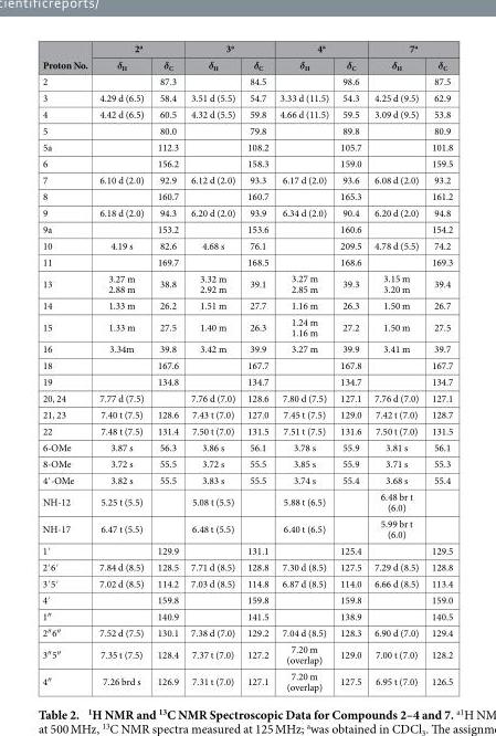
<table><thead><tr><td rowspan="2">Proton No.</td><td colspan="2">2<sup>a</sup></td><td colspan="2">3<sup>a</sup></td><td colspan="2">4<sup>a</sup></td><td colspan="2">7<sup>a</sup></td></tr><tr><td>δ<sub>H</sub></td><td>δ<sub>C</sub></td><td>δ<sub>H</sub></td><td>δ<sub>C</sub></td><td>δ<sub>H</sub></td><td>δ<sub>C</sub></td><td>δ<sub>H</sub></td><td>δ<sub>C</sub></td></tr></thead><tbody><tr><td>2</td><td></td><td>87.3</td><td></td><td>84.5</td><td></td><td>98.6</td><td></td><td>87.5</td></tr><tr><td>3</td><td>4.29 d (6.5)</td><td>58.4</td><td>3.51 d (5.5)</td><td>54.7</td><td>3.33 d (11.5)</td><td>54.3</td><td>4.25 d (9.5)</td><td>62.9</td></tr><tr><td>4</td><td>4.42 d (6.5)</td><td>60.5</td><td>4.32 d (5.5)</td><td>59.8</td><td>4.66 d (11.5)</td><td>59.5</td><td>3.09 d (9.5)</td><td>53.8</td></tr><tr><td>5</td><td></td><td>80.0</td><td></td><td>79.8</td><td></td><td>89.8</td><td></td><td>80.9</td></tr><tr><td>5a</td><td></td><td>112.3</td><td></td><td>108.2</td><td></td><td>105.7</td><td></td><td>101.8</td></tr><tr><td>6</td><td></td><td>156.2</td><td></td><td>158.3</td><td></td><td>159.0</td><td></td><td>159.5</td></tr><tr><td>7</td><td>6.10 d (2.0)</td><td>92.9</td><td>6.12 d (2.0)</td><td>93.3</td><td>6.17 d (2.0)</td><td>93.6</td><td>6.08 d (2.0)</td><td>93.2</td></tr><tr><td>8</td><td></td><td>160.7</td><td></td><td>160.7</td><td></td><td>165.3</td><td></td><td>161.2</td></tr><tr><td>9</td><td>6.18 d (2.0)</td><td>94.3</td><td>6.20 d (2.0)</td><td>93.9</td><td>6.34 d (2.0)</td><td>90.4</td><td>6.20 d (2.0)</td><td>94.8</td></tr><tr><td>9a</td><td></td><td>153.2</td><td></td><td>153.6</td><td></td><td>160.6</td><td></td><td>154.2</td></tr><tr><td>10</td><td>4.19 s</td><td>82.6</td><td>4.68 s</td><td>76.1</td><td></td><td>209.5</td><td>4.78 d (5.5)</td><td>74.2</td></tr><tr><td>11</td><td></td><td>169.7</td><td></td><td>168.5</td><td></td><td>168.6</td><td></td><td>169.3</td></tr><tr><td>13</td><td>3.27 m 2.88 m</td><td>38.8</td><td>3.32 m 2.92 m</td><td>39.1</td><td>3.27 m 2.85 m</td><td>39.3</td><td>3.15 m 3.20 m</td><td>39.4</td></tr><tr><td>14</td><td>1.33 m</td><td>26.2</td><td>1.51 m</td><td>27.7</td><td>1.16 m</td><td>26.3</td><td>1.50 m</td><td>26.7</td></tr><tr><td>15</td><td>1.33 m</td><td>27.5</td><td>1.40 m</td><td>26.3</td><td>1.24 m 1.16 m</td><td>27.2</td><td>1.50 m</td><td>27.5</td></tr><tr><td>16</td><td>3.34m</td><td>39.8</td><td>3.42 m</td><td>39.9</td><td>3.27 m</td><td>39.9</td><td>3.41 m</td><td>39.7</td></tr><tr><td>18</td><td></td><td>167.6</td><td></td><td>167.7</td><td></td><td>167.8</td><td></td><td>167.7</td></tr><tr><td>19</td><td></td><td>134.8</td><td></td><td>134.7</td><td></td><td>134.7</td><td></td><td>134.7</td></tr><tr><td>20, 24</td><td>7.77 d (7.5)</td><td></td><td>7.76 d (7.0)</td><td>128.6</td><td>7.80 d (7.5)</td><td>127.1</td><td>7.76 d (7.0)</td><td>127.1</td></tr><tr><td>21, 23</td><td>7.40 t (7.5)</td><td>128.6</td><td>7.43 t (7.0)</td><td>127.0</td><td>7.45 t (7.5)</td><td>129.0</td><td>7.42 t (7.0)</td><td>128.7</td></tr><tr><td>22</td><td>7.48 t (7.5)</td><td>131.4</td><td>7.50 t (7.0)</td><td>131.5</td><td>7.51 t (7.5)</td><td>131.6</td><td>7.50 t (7.0)</td><td>131.5</td></tr><tr><td>6-OMe</td><td>3.87 s</td><td>56.3</td><td>3.86 s</td><td>56.1</td><td>3.78 s</td><td>55.9</td><td>3.81 s</td><td>56.1</td></tr><tr><td>8-OMe</td><td>3.72 s</td><td>55.5</td><td>3.72 s</td><td>55.5</td><td>3.85 s</td><td>55.9</td><td>3.71 s</td><td>55.3</td></tr><tr><td>4′ -OMe</td><td>3.82 s</td><td>55.5</td><td>3.83 s</td><td>55.5</td><td>3.74 s</td><td>55.4</td><td>3.68 s</td><td>55.4</td></tr><tr><td>NH-12</td><td>5.25 t (5.5)</td><td></td><td>5.08 t (5.5)</td><td></td><td>5.88 t (6.5)</td><td></td><td>6.48 br t (6.0)</td><td></td></tr><tr><td>NH-17</td><td>6.47 t (5.5)</td><td></td><td>6.48 t (5.5)</td><td></td><td>6.40 t (6.5)</td><td></td><td>5.99 br t (6.0)</td><td></td></tr><tr><td>1′</td><td></td><td>129.9</td><td></td><td>131.1</td><td></td><td>125.4</td><td></td><td>129.5</td></tr><tr><td>2′ 6′</td><td>7.84 d (8.5)</td><td>128.5</td><td>7.71 d (8.5)</td><td>128.8</td><td>7.30 d (8.5)</td><td>127.5</td><td>7.29 d (8.5)</td><td>128.8</td></tr><tr><td>3′ 5′</td><td>7.02 d (8.5)</td><td>114.2</td><td>7.03 d (8.5)</td><td>114.8</td><td>6.87 d (8.5)</td><td>114.0</td><td>6.66 d (8.5)</td><td>113.4</td></tr><tr><td>4′</td><td></td><td>159.8</td><td></td><td>159.8</td><td></td><td>159.8</td><td></td><td>159.0</td></tr><tr><td>1″</td><td></td><td>140.9</td><td></td><td>141.5</td><td></td><td>138.9</td><td></td><td>140.5</td></tr><tr><td>2″ 6″</td><td>7.52 d (7.5)</td><td>130.1</td><td>7.38 d (7.0)</td><td>129.2</td><td>7.04 d (8.5)</td><td>128.3</td><td>6.90 d (7.0)</td><td>129.4</td></tr><tr><td>3″ 5″</td><td>7.35 t (7.5)</td><td>128.4</td><td>7.37 t (7.0)</td><td>127.2</td><td>7.20 m (overlap)</td><td>129.0</td><td>7.00 t (7.0)</td><td>128.2</td></tr><tr><td>4″</td><td>7.26 brd s</td><td>126.9</td><td>7.31 t (7.0)</td><td>127.1</td><td>7.20 m (overlap)</td><td>127.5</td><td>6.95 t (7.0)</td><td>126.5</td></tr></tbody></table>